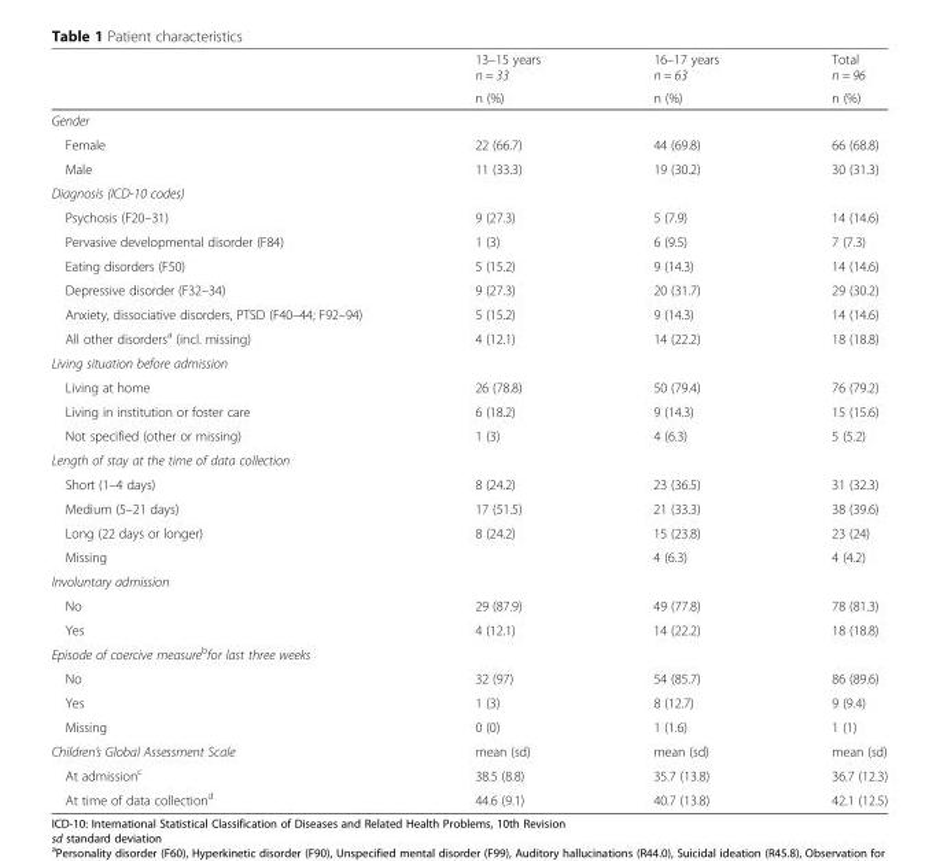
<table><thead><tr><td rowspan="2"></td><td rowspan="2">13–15 years n = 33 n (%)</td><td rowspan="2">16–17 years n = 63 n (%)</td><td rowspan="2">Total n = 96 n (%)</td></tr><tr></tr></thead><tbody><tr><td colspan="4">Gender</td></tr><tr><td>Female</td><td>22 (66.7)</td><td>44 (69.8)</td><td>66 (68.8)</td></tr><tr><td>Male</td><td>11 (33.3)</td><td>19 (30.2)</td><td>30 (31.3)</td></tr><tr><td colspan="4">Diagnosis (ICD-10 codes)</td></tr><tr><td>Psychosis (F20–31)</td><td>9 (27.3)</td><td>5 (7.9)</td><td>14 (14.6)</td></tr><tr><td>Pervasive developmental disorder (F84)</td><td>1 (3)</td><td>6 (9.5)</td><td>7 (7.3)</td></tr><tr><td>Eating disorders (F50)</td><td>5 (15.2)</td><td>9 (14.3)</td><td>14 (14.6)</td></tr><tr><td>Depressive disorder (F32–34)</td><td>9 (27.3)</td><td>20 (31.7)</td><td>29 (30.2)</td></tr><tr><td>Anxiety, dissociative disorders, PTSD (F40–44; F92–94)</td><td>5 (15.2)</td><td>9 (14.3)</td><td>14 (14.6)</td></tr><tr><td>All other disorders<sup>a</sup> (incl. missing)</td><td>4 (12.1)</td><td>14 (22.2)</td><td>18 (18.8)</td></tr><tr><td colspan="4">Living situation before admission</td></tr><tr><td>Living at home</td><td>26 (78.8)</td><td>50 (79.4)</td><td>76 (79.2)</td></tr><tr><td>Living in institution or foster care</td><td>6 (18.2)</td><td>9 (14.3)</td><td>15 (15.6)</td></tr><tr><td>Not specified (other or missing)</td><td>1 (3)</td><td>4 (6.3)</td><td>5 (5.2)</td></tr><tr><td colspan="4">Length of stay at the time of data collection</td></tr><tr><td>Short (1–4 days)</td><td>8 (24.2)</td><td>23 (36.5)</td><td>31 (32.3)</td></tr><tr><td>Medium (5–21 days)</td><td>17 (51.5)</td><td>21 (33.3)</td><td>38 (39.6)</td></tr><tr><td>Long (22 days or longer)</td><td>8 (24.2)</td><td>15 (23.8)</td><td>23 (24)</td></tr><tr><td>Missing</td><td></td><td>4 (6.3)</td><td>4 (4.2)</td></tr><tr><td colspan="4">Involuntary admission</td></tr><tr><td>No</td><td>29 (87.9)</td><td>49 (77.8)</td><td>78 (81.3)</td></tr><tr><td>Yes</td><td>4 (12.1)</td><td>14 (22.2)</td><td>18 (18.8)</td></tr><tr><td colspan="4">Episode of coercive measure<sup>b</sup>for last three weeks</td></tr><tr><td>No</td><td>32 (97)</td><td>54 (85.7)</td><td>86 (89.6)</td></tr><tr><td>Yes</td><td>1 (3)</td><td>8 (12.7)</td><td>9 (9.4)</td></tr><tr><td>Missing</td><td>0 (0)</td><td>1 (1.6)</td><td>1 (1)</td></tr><tr><td>Children’s Global Assessment Scale</td><td>mean (sd)</td><td>mean (sd)</td><td>mean (sd)</td></tr><tr><td>At admission<sup>c</sup></td><td>38.5 (8.8)</td><td>35.7 (13.8)</td><td>36.7 (12.3)</td></tr><tr><td>At time of data collection<sup>d</sup></td><td>44.6 (9.1)</td><td>40.7 (13.8)</td><td>42.1 (12.5)</td></tr></tbody></table>